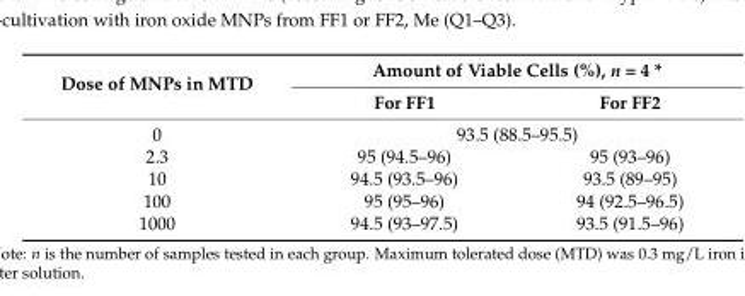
<table><thead><tr><td rowspan="2">Dose of MNPs in MTD</td><td colspan="2">Amount of Viable Cells (%), n = 4 *</td></tr><tr><td>For FF1</td><td>For FF2</td></tr></thead><tbody><tr><td>0</td><td colspan="2">93.5 (88.5–95.5)</td></tr><tr><td>2.3</td><td>95 (94.5–96)</td><td>95 (93–96)</td></tr><tr><td>10</td><td>94.5 (93.5–96)</td><td>93.5 (89–95)</td></tr><tr><td>100</td><td>95 (95–96)</td><td>94 (92.5–96.5)</td></tr><tr><td>1000</td><td>94.5 (93–97.5)</td><td>93.5 (91.5–96)</td></tr></tbody></table>